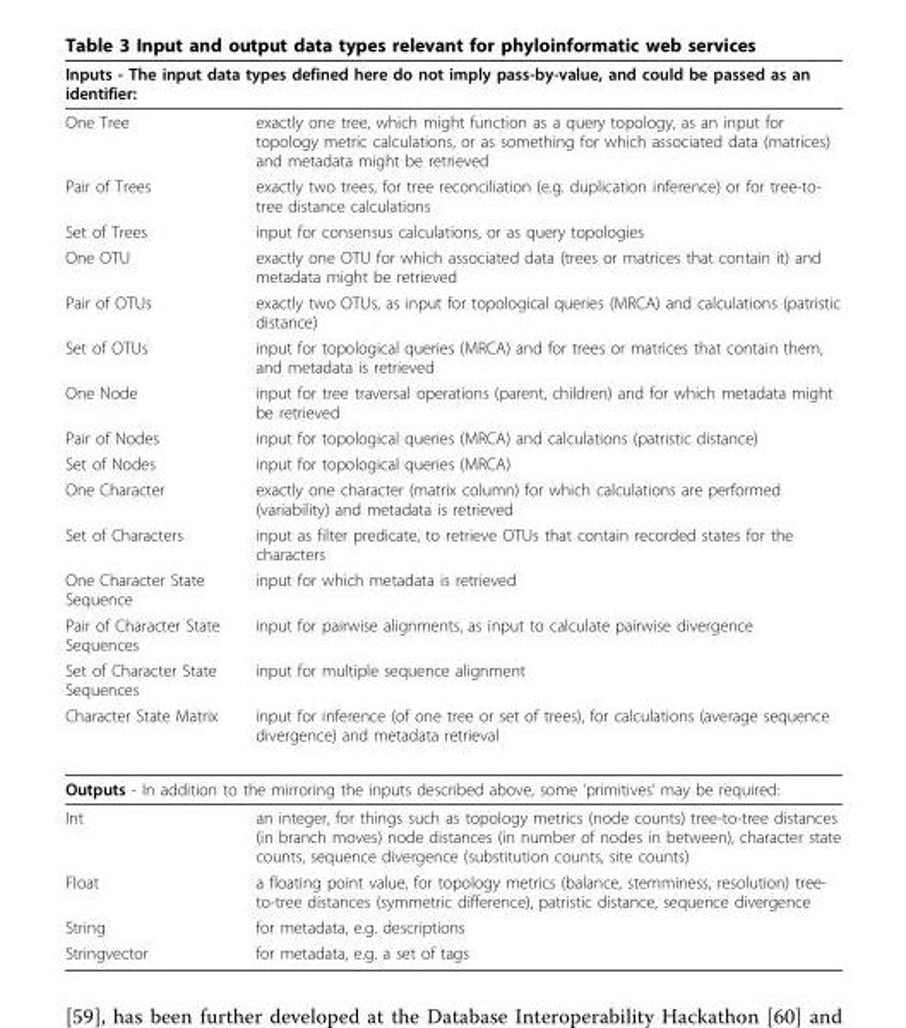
<table><thead><tr><td colspan="2">Inputs - The input data types defined here do not imply pass-by-value, and could be passed as an identifier:</td></tr><tr><td>One Tree</td><td>exactly one tree, which might function as a query topology, as an input for topology metric calculations, or as something for which associated data (matrices) and metadata might be retrieved</td></tr></thead><tbody><tr><td>Pair of Trees</td><td>exactly two trees, for tree reconciliation (e.g. duplication inference) or for tree-to- tree distance calculations</td></tr><tr><td>Set of Trees</td><td>input for consensus calculations, or as query topologies</td></tr><tr><td>One OTU</td><td>exactly one OTU for which associated data (trees or matrices that contain it) and metadata might be retrieved</td></tr><tr><td>Pair of OTUs</td><td>exactly two OTUs, as input for topological queries (MRCA) and calculations (patristic distance)</td></tr><tr><td>Set of OTUs</td><td>input for topological queries (MRCA) and for trees or matrices that contain them, and metadata is retrieved</td></tr><tr><td>One Node</td><td>input for tree traversal operations (parent, children) and for which metadata might be retrieved</td></tr><tr><td>Pair of Nodes</td><td>input for topological queries (MRCA) and calculations (patristic distance)</td></tr><tr><td>Set of Nodes</td><td>input for topological queries (MRCA)</td></tr><tr><td>One Character</td><td>exactly one character (matrix column) for which calculations are performed (variability) and metadata is retrieved</td></tr><tr><td>Set of Characters</td><td>input as filter predicate, to retrieve OTUs that contain recorded states for the characters</td></tr><tr><td>One Character State Sequence</td><td>input for which metadata is retrieved</td></tr><tr><td>Pair of Character State Sequences</td><td>input for pairwise alignments, as input to calculate pairwise divergence</td></tr><tr><td>Set of Character State Sequences</td><td>input for multiple sequence alignment</td></tr><tr><td>Character State Matrix</td><td>input for inference (of one tree or set of trees), for calculations (average sequence divergence) and metadata retrieval</td></tr><tr><td colspan="2">Outputs - In addition to the mirroring the inputs described above, some ‘primitives’ may be required:</td></tr><tr><td>Int</td><td>an integer, for things such as topology metrics (node counts) tree-to-tree distances (in branch moves) node distances (in number of nodes in between), character state counts, sequence divergence (substitution counts, site counts)</td></tr><tr><td>Float</td><td>a floating point value, for topology metrics (balance, stemminess, resolution) tree- to-tree distances (symmetric difference), patristic distance, sequence divergence</td></tr><tr><td>String</td><td>for metadata, e.g. descriptions</td></tr><tr><td>Stringvector</td><td>for metadata, e.g. a set of tags</td></tr></tbody></table>